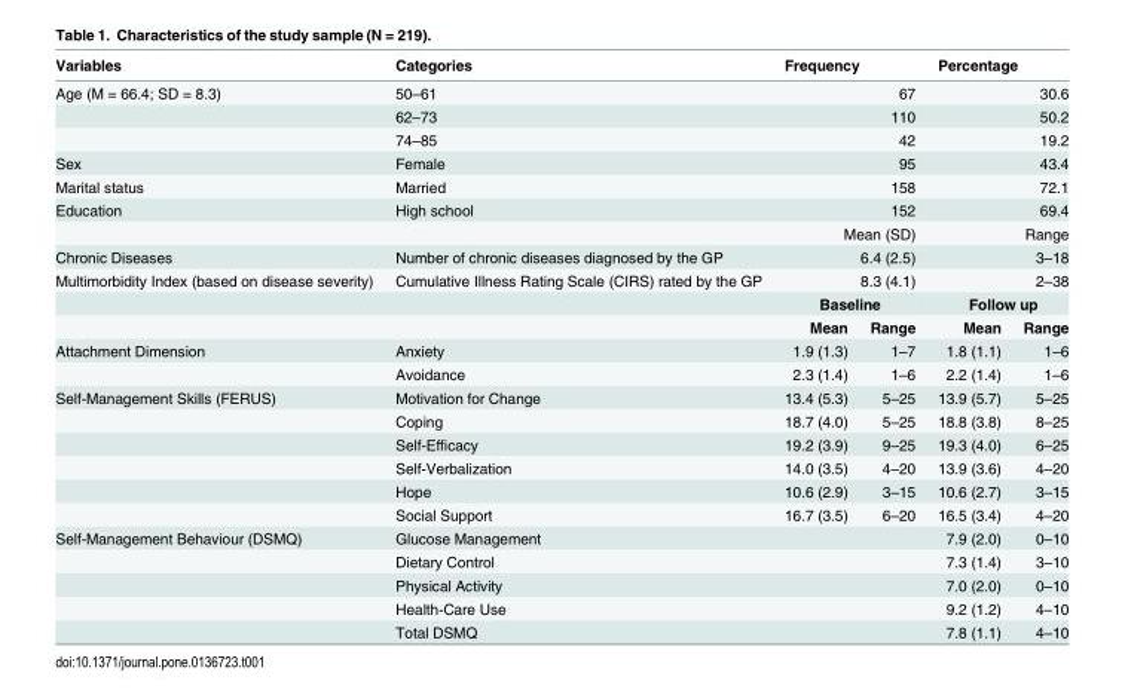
<table><thead><tr><td>Variables</td><td>Categories</td><td colspan="2">Frequency</td><td colspan="2">Percentage</td></tr></thead><tbody><tr><td rowspan="3">Age (M = 66.4; SD = 8.3)</td><td>50–61</td><td colspan="2">67</td><td colspan="2">30.6</td></tr><tr><td>62–73</td><td colspan="2">110</td><td colspan="2">50.2</td></tr><tr><td>74–85</td><td colspan="2">42</td><td colspan="2">19.2</td></tr><tr><td>Sex</td><td>Female</td><td colspan="2">95</td><td colspan="2">43.4</td></tr><tr><td>Marital status</td><td>Married</td><td colspan="2">158</td><td colspan="2">72.1</td></tr><tr><td rowspan="2">Education</td><td>High school</td><td colspan="2">152</td><td colspan="2">69.4</td></tr><tr><td></td><td colspan="2">Mean (SD)</td><td colspan="2">Range</td></tr><tr><td>Chronic Diseases</td><td>Number of chronic diseases diagnosed by the GP</td><td colspan="2">6.4 (2.5)</td><td colspan="2">3–18</td></tr><tr><td rowspan="3">Multimorbidity Index (based on disease severity)</td><td>Cumulative Illness Rating Scale (CIRS) rated by the GP</td><td colspan="2">8.3 (4.1)</td><td colspan="2">2–38</td></tr><tr><td></td><td colspan="2">Baseline</td><td colspan="2">Follow up</td></tr><tr><td></td><td>Mean</td><td>Range</td><td>Mean</td><td>Range</td></tr><tr><td rowspan="2">Attachment Dimension</td><td>Anxiety</td><td>1.9 (1.3)</td><td>1–7</td><td>1.8 (1.1)</td><td>1–6</td></tr><tr><td>Avoidance</td><td>2.3 (1.4)</td><td>1–6</td><td>2.2 (1.4)</td><td>1–6</td></tr><tr><td rowspan="6">Self-Management Skills (FERUS)</td><td>Motivation for Change</td><td>13.4 (5.3)</td><td>5–25</td><td>13.9 (5.7)</td><td>5–25</td></tr><tr><td>Coping</td><td>18.7 (4.0)</td><td>5–25</td><td>18.8 (3.8)</td><td>8–25</td></tr><tr><td>Self-Efficacy</td><td>19.2 (3.9)</td><td>9–25</td><td>19.3 (4.0)</td><td>6–25</td></tr><tr><td>Self-Verbalization</td><td>14.0 (3.5)</td><td>4–20</td><td>13.9 (3.6)</td><td>4–20</td></tr><tr><td>Hope</td><td>10.6 (2.9)</td><td>3–15</td><td>10.6 (2.7)</td><td>3–15</td></tr><tr><td>Social Support</td><td>16.7 (3.5)</td><td>6–20</td><td>16.5 (3.4)</td><td>4–20</td></tr><tr><td rowspan="5">Self-Management Behaviour (DSMQ)</td><td>Glucose Management</td><td></td><td></td><td>7.9 (2.0)</td><td>0–10</td></tr><tr><td>Dietary Control</td><td></td><td></td><td>7.3 (1.4)</td><td>3–10</td></tr><tr><td>Physical Activity</td><td></td><td></td><td>7.0 (2.0)</td><td>0–10</td></tr><tr><td>Health-Care Use</td><td></td><td></td><td>9.2 (1.2)</td><td>4–10</td></tr><tr><td>Total DSMQ</td><td></td><td></td><td>7.8 (1.1)</td><td>4–10</td></tr></tbody></table>